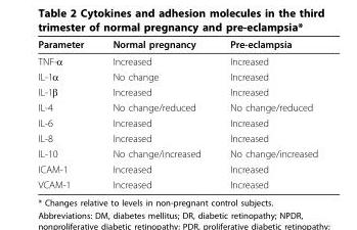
<table><thead><tr><td>Parameter</td><td>Normal pregnancy</td><td>Pre-eclampsia</td></tr></thead><tbody><tr><td>TNF-α</td><td>Increased</td><td>Increased</td></tr><tr><td>IL-1α</td><td>No change</td><td>Increased</td></tr><tr><td>IL-1β</td><td>Increased</td><td>Increased</td></tr><tr><td>IL-4</td><td>No change/reduced</td><td>No change/reduced</td></tr><tr><td>IL-6</td><td>Increased</td><td>Increased</td></tr><tr><td>IL-8</td><td>Increased</td><td>Increased</td></tr><tr><td>IL-10</td><td>No change/increased</td><td>No change/increased</td></tr><tr><td>ICAM-1</td><td>Increased</td><td>Increased</td></tr><tr><td>VCAM-1</td><td>Increased</td><td>Increased</td></tr></tbody></table>